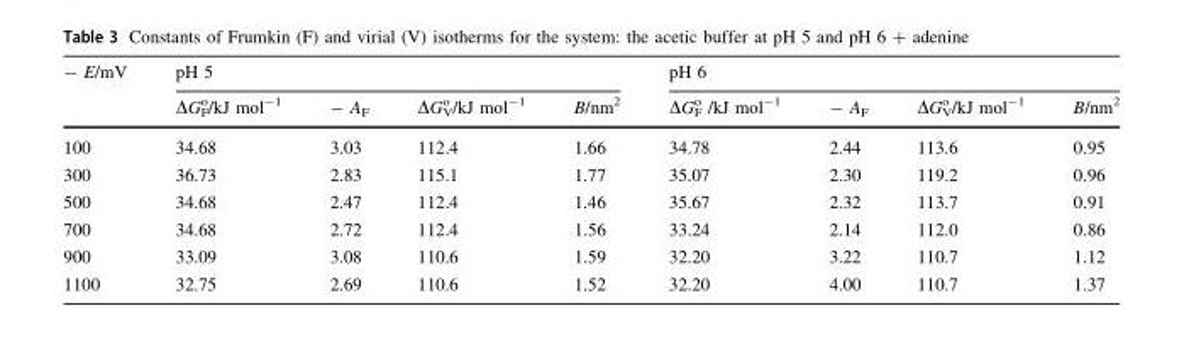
<table><thead><tr><td rowspan="2">- E/mV</td><td colspan="4">pH 5</td><td colspan="4">pH 6</td></tr><tr><td>ΔG<sub>F</sub> <sup>o</sup>/kJ mol<sup>-1</sup></td><td>- A<sub>F</sub></td><td>ΔG<sub>V</sub> <sup>o</sup> /kJ mol<sup>-1</sup></td><td>B/nm<sup>2</sup></td><td>ΔG<sub>F</sub> <sup>o</sup> /kJ mol<sup>-1</sup></td><td>- A<sub>F</sub></td><td>ΔG<sub>V</sub> <sup>o</sup> /kJ mol<sup>-1</sup></td><td>B/nm<sup>2</sup></td></tr></thead><tbody><tr><td>100</td><td>34.68</td><td>3.03</td><td>112.4</td><td>1.66</td><td>34.78</td><td>2.44</td><td>113.6</td><td>0.95</td></tr><tr><td>300</td><td>36.73</td><td>2.83</td><td>115.1</td><td>1.77</td><td>35.07</td><td>2.30</td><td>119.2</td><td>0.96</td></tr><tr><td>500</td><td>34.68</td><td>2.47</td><td>112.4</td><td>1.46</td><td>35.67</td><td>2.32</td><td>113.7</td><td>0.91</td></tr><tr><td>700</td><td>34.68</td><td>2.72</td><td>112.4</td><td>1.56</td><td>33.24</td><td>2.14</td><td>112.0</td><td>0.86</td></tr><tr><td>900</td><td>33.09</td><td>3.08</td><td>110.6</td><td>1.59</td><td>32.20</td><td>3.22</td><td>110.7</td><td>1.12</td></tr><tr><td>1100</td><td>32.75</td><td>2.69</td><td>110.6</td><td>1.52</td><td>32.20</td><td>4.00</td><td>110.7</td><td>1.37</td></tr></tbody></table>